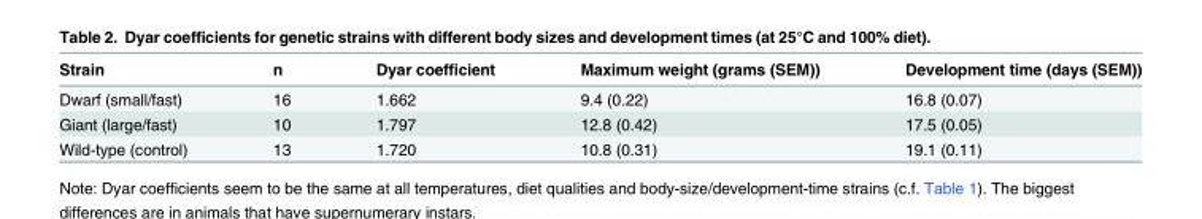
<table><thead><tr><td>Strain</td><td>n</td><td>Dyar coefficient</td><td>Maximum weight (grams (SEM))</td><td>Development time (days (SEM))</td></tr></thead><tbody><tr><td>Dwarf (small/fast)</td><td>16</td><td>1.662</td><td>9.4 (0.22)</td><td>16.8 (0.07)</td></tr><tr><td>Giant (large/fast)</td><td>10</td><td>1.797</td><td>12.8 (0.42)</td><td>17.5 (0.05)</td></tr><tr><td>Wild-type (control)</td><td>13</td><td>1.720</td><td>10.8 (0.31)</td><td>19.1 (0.11)</td></tr></tbody></table>